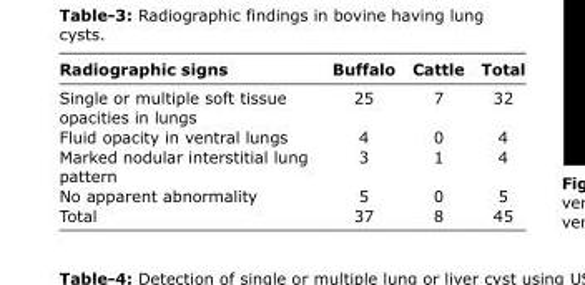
<table><thead><tr><td>Radiographic signs</td><td>Buffalo</td><td>Cattle</td><td>Total</td></tr></thead><tbody><tr><td>Single or multiple soft tissue opacities in lungs</td><td>25</td><td>7</td><td>32</td></tr><tr><td>Fluid opacity in ventral lungs</td><td>4</td><td>0</td><td>4</td></tr><tr><td>Marked nodular interstitial lung pattern</td><td>3</td><td>1</td><td>4</td></tr><tr><td>No apparent abnormality</td><td>5</td><td>0</td><td>5</td></tr><tr><td>Total</td><td>37</td><td>8</td><td>45</td></tr></tbody></table>